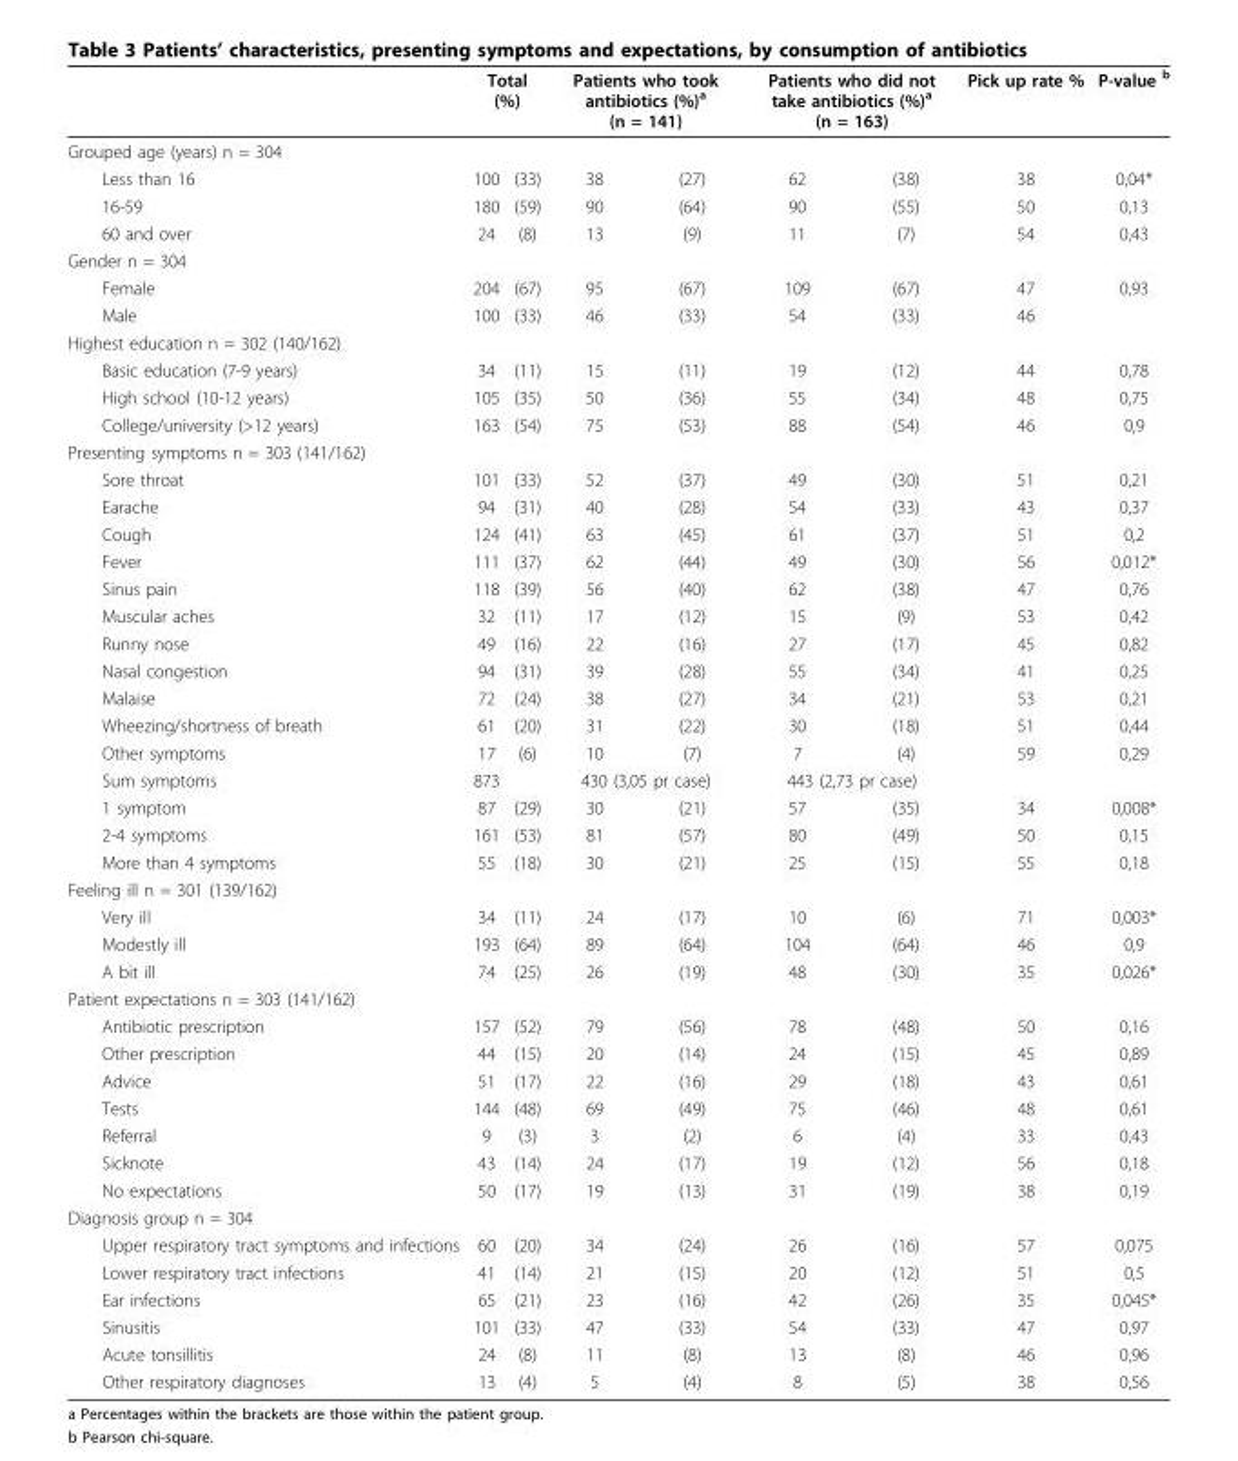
<table><thead><tr><td rowspan="2">Grouped age (years) n = 304</td><td colspan="2">Total (%)</td><td colspan="2">Patients who took antibiotics (%)<sup>a</sup> (n = 141)</td><td colspan="2">Patients who did not take antibiotics (%)<sup>a</sup> (n = 163)</td><td rowspan="2">Pick up rate %</td><td rowspan="2">P-value <sup>b</sup></td></tr><tr><td></td><td></td><td></td><td></td><td></td><td></td></tr></thead><tbody><tr><td>Less than 16</td><td>100</td><td>(33)</td><td>38</td><td>(27)</td><td>62</td><td>(38)</td><td>38</td><td>0,04*</td></tr><tr><td>16-59</td><td>180</td><td>(59)</td><td>90</td><td>(64)</td><td>90</td><td>(55)</td><td>50</td><td>0,13</td></tr><tr><td>60 and over</td><td>24</td><td>(8)</td><td>13</td><td>(9)</td><td>11</td><td>(7)</td><td>54</td><td>0,43</td></tr><tr><td colspan="9">Gender n = 304</td></tr><tr><td>Female</td><td>204</td><td>(67)</td><td>95</td><td>(67)</td><td>109</td><td>(67)</td><td>47</td><td>0,93</td></tr><tr><td>Male</td><td>100</td><td>(33)</td><td>46</td><td>(33)</td><td>54</td><td>(33)</td><td>46</td><td></td></tr><tr><td colspan="9">Highest education n = 302 (140/162)</td></tr><tr><td>Basic education (7-9 years)</td><td>34</td><td>(11)</td><td>15</td><td>(11)</td><td>19</td><td>(12)</td><td>44</td><td>0,78</td></tr><tr><td>High school (10-12 years)</td><td>105</td><td>(35)</td><td>50</td><td>(36)</td><td>55</td><td>(34)</td><td>48</td><td>0,75</td></tr><tr><td>College/university (&gt;12 years)</td><td>163</td><td>(54)</td><td>75</td><td>(53)</td><td>88</td><td>(54)</td><td>46</td><td>0,9</td></tr><tr><td colspan="9">Presenting symptoms n = 303 (141/162)</td></tr><tr><td>Sore throat</td><td>101</td><td>(33)</td><td>52</td><td>(37)</td><td>49</td><td>(30)</td><td>51</td><td>0,21</td></tr><tr><td>Earache</td><td>94</td><td>(31)</td><td>40</td><td>(28)</td><td>54</td><td>(33)</td><td>43</td><td>0,37</td></tr><tr><td>Cough</td><td>124</td><td>(41)</td><td>63</td><td>(45)</td><td>61</td><td>(37)</td><td>51</td><td>0,2</td></tr><tr><td>Fever</td><td>111</td><td>(37)</td><td>62</td><td>(44)</td><td>49</td><td>(30)</td><td>56</td><td>0,012*</td></tr><tr><td>Sinus pain</td><td>118</td><td>(39)</td><td>56</td><td>(40)</td><td>62</td><td>(38)</td><td>47</td><td>0,76</td></tr><tr><td>Muscular aches</td><td>32</td><td>(11)</td><td>17</td><td>(12)</td><td>15</td><td>(9)</td><td>53</td><td>0,42</td></tr><tr><td>Runny nose</td><td>49</td><td>(16)</td><td>22</td><td>(16)</td><td>27</td><td>(17)</td><td>45</td><td>0,82</td></tr><tr><td>Nasal congestion</td><td>94</td><td>(31)</td><td>39</td><td>(28)</td><td>55</td><td>(34)</td><td>41</td><td>0,25</td></tr><tr><td>Malaise</td><td>72</td><td>(24)</td><td>38</td><td>(27)</td><td>34</td><td>(21)</td><td>53</td><td>0,21</td></tr><tr><td>Wheezing/shortness of breath</td><td>61</td><td>(20)</td><td>31</td><td>(22)</td><td>30</td><td>(18)</td><td>51</td><td>0,44</td></tr><tr><td>Other symptoms</td><td>17</td><td>(6)</td><td>10</td><td>(7)</td><td>7</td><td>(4)</td><td>59</td><td>0,29</td></tr><tr><td>Sum symptoms</td><td>873</td><td></td><td colspan="2">430 (3,05 pr case)</td><td colspan="2">443 (2,73 pr case)</td><td></td><td></td></tr><tr><td>1 symptom</td><td>87</td><td>(29)</td><td>30</td><td>(21)</td><td>57</td><td>(35)</td><td>34</td><td>0,008*</td></tr><tr><td>2-4 symptoms</td><td>161</td><td>(53)</td><td>81</td><td>(57)</td><td>80</td><td>(49)</td><td>50</td><td>0,15</td></tr><tr><td>More than 4 symptoms</td><td>55</td><td>(18)</td><td>30</td><td>(21)</td><td>25</td><td>(15)</td><td>55</td><td>0,18</td></tr><tr><td colspan="9">Feeling ill n = 301 (139/162)</td></tr><tr><td>Very ill</td><td>34</td><td>(11)</td><td>24</td><td>(17)</td><td>10</td><td>(6)</td><td>71</td><td>0,003*</td></tr><tr><td>Modestly ill</td><td>193</td><td>(64)</td><td>89</td><td>(64)</td><td>104</td><td>(64)</td><td>46</td><td>0,9</td></tr><tr><td>A bit ill</td><td>74</td><td>(25)</td><td>26</td><td>(19)</td><td>48</td><td>(30)</td><td>35</td><td>0,026*</td></tr><tr><td colspan="9">Patient expectations n = 303 (141/162)</td></tr><tr><td>Antibiotic prescription</td><td>157</td><td>(52)</td><td>79</td><td>(56)</td><td>78</td><td>(48)</td><td>50</td><td>0,16</td></tr><tr><td>Other prescription</td><td>44</td><td>(15)</td><td>20</td><td>(14)</td><td>24</td><td>(15)</td><td>45</td><td>0,89</td></tr><tr><td>Advice</td><td>51</td><td>(17)</td><td>22</td><td>(16)</td><td>29</td><td>(18)</td><td>43</td><td>0,61</td></tr><tr><td>Tests</td><td>144</td><td>(48)</td><td>69</td><td>(49)</td><td>75</td><td>(46)</td><td>48</td><td>0,61</td></tr><tr><td>Referral</td><td>9</td><td>(3)</td><td>3</td><td>(2)</td><td>6</td><td>(4)</td><td>33</td><td>0,43</td></tr><tr><td>Sicknote</td><td>43</td><td>(14)</td><td>24</td><td>(17)</td><td>19</td><td>(12)</td><td>56</td><td>0,18</td></tr><tr><td>No expectations</td><td>50</td><td>(17)</td><td>19</td><td>(13)</td><td>31</td><td>(19)</td><td>38</td><td>0,19</td></tr><tr><td colspan="9">Diagnosis group n = 304</td></tr><tr><td>Upper respiratory tract symptoms and infections</td><td>60</td><td>(20)</td><td>34</td><td>(24)</td><td>26</td><td>(16)</td><td>57</td><td>0,075</td></tr><tr><td>Lower respiratory tract infections</td><td>41</td><td>(14)</td><td>21</td><td>(15)</td><td>20</td><td>(12)</td><td>51</td><td>0,5</td></tr><tr><td>Ear infections</td><td>65</td><td>(21)</td><td>23</td><td>(16)</td><td>42</td><td>(26)</td><td>35</td><td>0,045*</td></tr><tr><td>Sinusitis</td><td>101</td><td>(33)</td><td>47</td><td>(33)</td><td>54</td><td>(33)</td><td>47</td><td>0,97</td></tr><tr><td>Acute tonsillitis</td><td>24</td><td>(8)</td><td>11</td><td>(8)</td><td>13</td><td>(8)</td><td>46</td><td>0,96</td></tr><tr><td>Other respiratory diagnoses</td><td>13</td><td>(4)</td><td>5</td><td>(4)</td><td>8</td><td>(5)</td><td>38</td><td>0,56</td></tr></tbody></table>